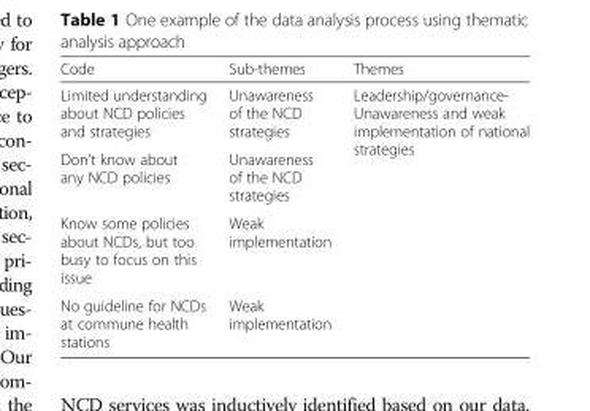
<table><thead><tr><td>Code</td><td>Sub-themes</td><td>Themes</td></tr></thead><tbody><tr><td>Limited understanding about NCD policies and strategies</td><td>Unawareness of the NCD strategies</td><td rowspan="4">Leadership/governance- Unawareness and weak implementation of national strategies</td></tr><tr><td>Don’t know about any NCD policies</td><td>Unawareness of the NCD strategies</td></tr><tr><td>Know some policies about NCDs, but too busy to focus on this issue</td><td>Weak implementation</td></tr><tr><td>No guideline for NCDs at commune health stations</td><td>Weak implementation</td></tr></tbody></table>